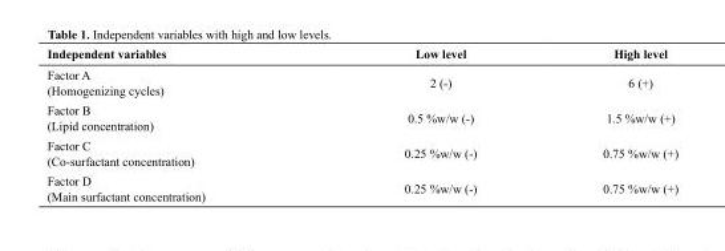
<table><thead><tr><td>Independent variables</td><td>Low level</td><td>High level</td></tr></thead><tbody><tr><td>Factor A (Homogenizing cycles)</td><td>2 (-)</td><td>6 (+)</td></tr><tr><td>Factor B (Lipid concentration)</td><td>0.5 %w/w (-)</td><td>1.5 %w/w (+)</td></tr><tr><td>Factor C (Co-surfactant concentration)</td><td>0.25 %w/w (-)</td><td>0.75 %w/w (+)</td></tr><tr><td>Factor D (Main surfactant concentration)</td><td>0.25 %w/w (-)</td><td>0.75 %w/w (+)</td></tr></tbody></table>